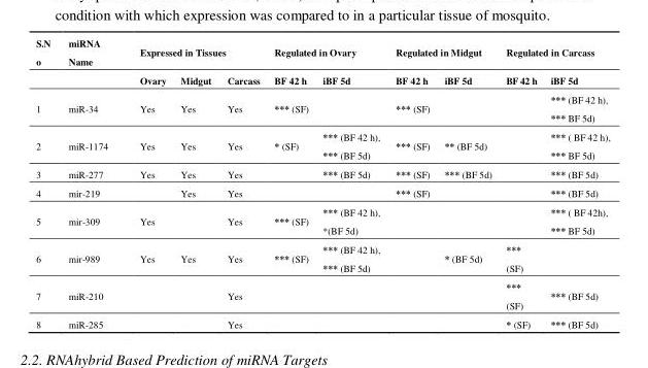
<table><thead><tr><td rowspan="2">S.N o</td><td rowspan="2">miRNA Name</td><td colspan="3">Expressed in Tissues</td><td colspan="2">Regulated in Ovary</td><td colspan="2">Regulated in Midgut</td><td colspan="2">Regulated in Carcass</td></tr><tr><td>Ovary</td><td>Midgut</td><td>Carcass</td><td>BF 42 h</td><td>iBF 5d</td><td>BF 42 h</td><td>iBF 5d</td><td>BF 42 h</td><td>iBF 5d</td></tr></thead><tbody><tr><td>1</td><td>miR-34</td><td>Yes</td><td>Yes</td><td>Yes</td><td>*** (SF)</td><td></td><td>*** (SF)</td><td></td><td></td><td>*** (BF 42 h), *** BF 5d)</td></tr><tr><td>2</td><td>miR-1174</td><td>Yes</td><td>Yes</td><td>Yes</td><td>* (SF)</td><td>*** (BF 42 h), *** (BF 5d)</td><td>*** (SF)</td><td>** (BF 5d)</td><td></td><td>*** ( BF 42 h), *** BF 5d)</td></tr><tr><td>3</td><td>miR-277</td><td>Yes</td><td>Yes</td><td>Yes</td><td></td><td>*** (BF 5d)</td><td>*** (SF)</td><td>*** (BF 5d)</td><td></td><td>*** (BF 5d)</td></tr><tr><td>4</td><td>mir-219</td><td></td><td>Yes</td><td>Yes</td><td></td><td></td><td>*** (SF)</td><td></td><td></td><td>*** (BF 5d)</td></tr><tr><td>5</td><td>mir-309</td><td>Yes</td><td></td><td>Yes</td><td>*** (SF)</td><td>*** (BF 42 h), *(BF 5d)</td><td></td><td></td><td></td><td>*** ( BF 42h), *** BF 5d)</td></tr><tr><td>6</td><td>mir-989</td><td>Yes</td><td>Yes</td><td>Yes</td><td>*** (SF)</td><td>*** (BF 42 h), *** (BF 5d)</td><td></td><td>* (BF 5d)</td><td>*** (SF)</td><td></td></tr><tr><td>7</td><td>miR-210</td><td></td><td></td><td>Yes</td><td></td><td></td><td></td><td></td><td>*** (SF)</td><td>*** (BF 5d)</td></tr><tr><td>8</td><td>miR-285</td><td></td><td></td><td>Yes</td><td></td><td></td><td></td><td></td><td>* (SF)</td><td>*** (BF 5d)</td></tr></tbody></table>